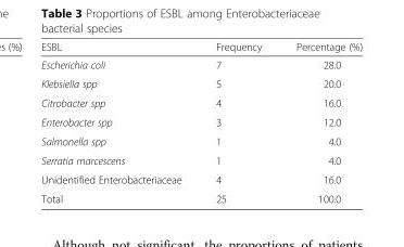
<table><thead><tr><td>ESBL</td><td>Frequency</td><td>Percentage (%)</td></tr></thead><tbody><tr><td>Escherichia coli</td><td>7</td><td>28.0</td></tr><tr><td>Klebsiella spp</td><td>5</td><td>20.0</td></tr><tr><td>Citrobacter spp</td><td>4</td><td>16.0</td></tr><tr><td>Enterobacter spp</td><td>3</td><td>12.0</td></tr><tr><td>Salmonella spp</td><td>1</td><td>4.0</td></tr><tr><td>Serratia marcescens</td><td>1</td><td>4.0</td></tr><tr><td>Unidentified Enterobacteriaceae</td><td>4</td><td>16.0</td></tr><tr><td>Total</td><td>25</td><td>100.0</td></tr></tbody></table>